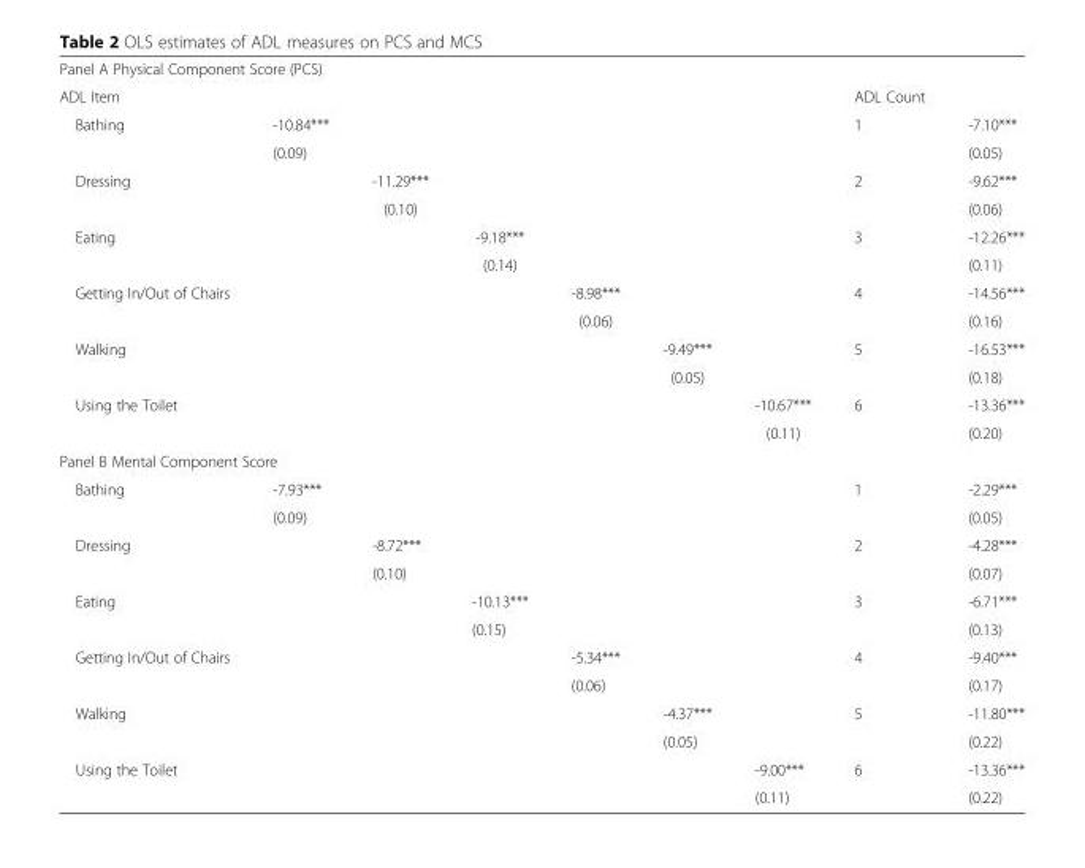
<table><tbody><tr><td colspan="9">Panel A Physical Component Score (PCS)</td></tr><tr><td>ADL Item</td><td></td><td></td><td></td><td></td><td></td><td></td><td>ADL Count</td><td></td></tr><tr><td rowspan="2">Bathing</td><td>-10.84***</td><td></td><td></td><td></td><td></td><td></td><td>1</td><td>-7.10***</td></tr><tr><td>(0.09)</td><td></td><td></td><td></td><td></td><td></td><td></td><td>(0.05)</td></tr><tr><td rowspan="2">Dressing</td><td></td><td>-11.29***</td><td></td><td></td><td></td><td></td><td>2</td><td>-9.62***</td></tr><tr><td></td><td>(0.10)</td><td></td><td></td><td></td><td></td><td></td><td>(0.06)</td></tr><tr><td rowspan="2">Eating</td><td></td><td></td><td>-9.18***</td><td></td><td></td><td></td><td>3</td><td>-12.26***</td></tr><tr><td></td><td></td><td>(0.14)</td><td></td><td></td><td></td><td></td><td>(0.11)</td></tr><tr><td rowspan="2">Getting In/Out of Chairs</td><td></td><td></td><td></td><td>-8.98***</td><td></td><td></td><td>4</td><td>-14.56***</td></tr><tr><td></td><td></td><td></td><td>(0.06)</td><td></td><td></td><td></td><td>(0.16)</td></tr><tr><td rowspan="2">Walking</td><td></td><td></td><td></td><td></td><td>-9.49***</td><td></td><td>5</td><td>-16.53***</td></tr><tr><td></td><td></td><td></td><td></td><td>(0.05)</td><td></td><td></td><td>(0.18)</td></tr><tr><td rowspan="2">Using the Toilet</td><td></td><td></td><td></td><td></td><td></td><td>-10.67***</td><td>6</td><td>-13.36***</td></tr><tr><td></td><td></td><td></td><td></td><td></td><td>(0.11)</td><td></td><td>(0.20)</td></tr><tr><td colspan="9">Panel B Mental Component Score</td></tr><tr><td rowspan="2">Bathing</td><td>-7.93***</td><td></td><td></td><td></td><td></td><td></td><td>1</td><td>-2.29***</td></tr><tr><td>(0.09)</td><td></td><td></td><td></td><td></td><td></td><td></td><td>(0.05)</td></tr><tr><td rowspan="2">Dressing</td><td></td><td>-8.72***</td><td></td><td></td><td></td><td></td><td>2</td><td>-4.28***</td></tr><tr><td></td><td>(0.10)</td><td></td><td></td><td></td><td></td><td></td><td>(0.07)</td></tr><tr><td rowspan="2">Eating</td><td></td><td></td><td>-10.13***</td><td></td><td></td><td></td><td>3</td><td>-6.71***</td></tr><tr><td></td><td></td><td>(0.15)</td><td></td><td></td><td></td><td></td><td>(0.13)</td></tr><tr><td rowspan="2">Getting In/Out of Chairs</td><td></td><td></td><td></td><td>-5.34***</td><td></td><td></td><td>4</td><td>-9.40***</td></tr><tr><td></td><td></td><td></td><td>(0.06)</td><td></td><td></td><td></td><td>(0.17)</td></tr><tr><td rowspan="2">Walking</td><td></td><td></td><td></td><td></td><td>-4.37***</td><td></td><td>5</td><td>-11.80***</td></tr><tr><td></td><td></td><td></td><td></td><td>(0.05)</td><td></td><td></td><td>(0.22)</td></tr><tr><td rowspan="2">Using the Toilet</td><td></td><td></td><td></td><td></td><td></td><td>-9.00***</td><td>6</td><td>-13.36***</td></tr><tr><td></td><td></td><td></td><td></td><td></td><td>(0.11)</td><td></td><td>(0.22)</td></tr></tbody></table>